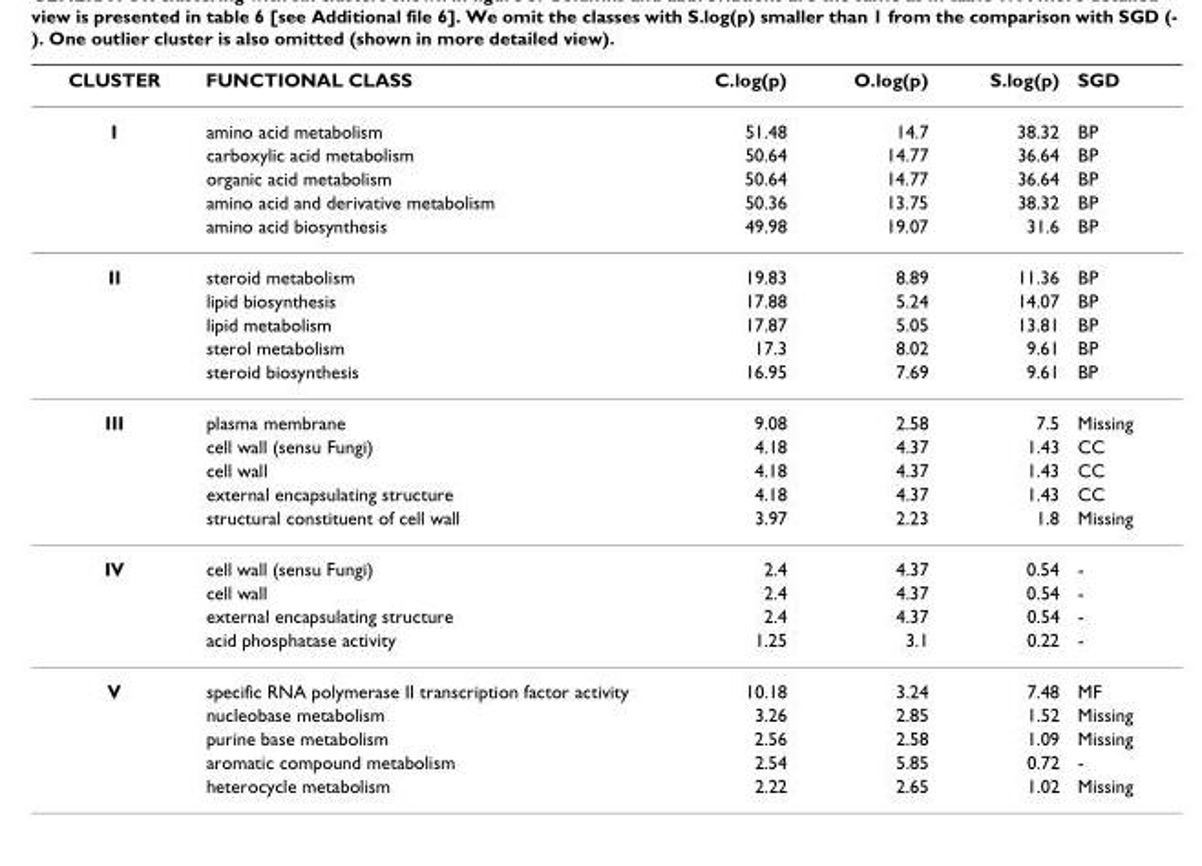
<table><thead><tr><td>CLUSTER</td><td>FUNCTIONAL CLASS</td><td>C.log(p)</td><td>O.log(p)</td><td>S.log(p)</td><td>SGD</td></tr></thead><tbody><tr><td rowspan="5">I</td><td>amino acid metabolism</td><td>51.48</td><td>14.7</td><td>38.32</td><td>BP</td></tr><tr><td>carboxylic acid metabolism</td><td>50.64</td><td>14.77</td><td>36.64</td><td>BP</td></tr><tr><td>organic acid metabolism</td><td>50.64</td><td>14.77</td><td>36.64</td><td>BP</td></tr><tr><td>amino acid and derivative metabolism</td><td>50.36</td><td>13.75</td><td>38.32</td><td>BP</td></tr><tr><td>amino acid biosynthesis</td><td>49.98</td><td>19.07</td><td>31.6</td><td>BP</td></tr><tr><td rowspan="5">II</td><td>steroid metabolism</td><td>19.83</td><td>8.89</td><td>11.36</td><td>BP</td></tr><tr><td>lipid biosynthesis</td><td>17.88</td><td>5.24</td><td>14.07</td><td>BP</td></tr><tr><td>lipid metabolism</td><td>17.87</td><td>5.05</td><td>13.81</td><td>BP</td></tr><tr><td>sterol metabolism</td><td>17.3</td><td>8.02</td><td>9.61</td><td>BP</td></tr><tr><td>steroid biosynthesis</td><td>16.95</td><td>7.69</td><td>9.61</td><td>BP</td></tr><tr><td rowspan="5">III</td><td>plasma membrane</td><td>9.08</td><td>2.58</td><td>7.5</td><td>Missing</td></tr><tr><td>cell wall (sensu Fungi)</td><td>4.18</td><td>4.37</td><td>1.43</td><td>CC</td></tr><tr><td>cell wall</td><td>4.18</td><td>4.37</td><td>1.43</td><td>CC</td></tr><tr><td>external encapsulating structure</td><td>4.18</td><td>4.37</td><td>1.43</td><td>CC</td></tr><tr><td>structural constituent of cell wall</td><td>3.97</td><td>2.23</td><td>1.8</td><td>Missing</td></tr><tr><td rowspan="4">IV</td><td>cell wall (sensu Fungi)</td><td>2.4</td><td>4.37</td><td>0.54</td><td>-</td></tr><tr><td>cell wall</td><td>2.4</td><td>4.37</td><td>0.54</td><td>-</td></tr><tr><td>external encapsulating structure</td><td>2.4</td><td>4.37</td><td>0.54</td><td>-</td></tr><tr><td>acid phosphatase activity</td><td>1.25</td><td>3.1</td><td>0.22</td><td>-</td></tr><tr><td rowspan="5">V</td><td>specific RNA polymerase II transcription factor activity</td><td>10.18</td><td>3.24</td><td>7.48</td><td>MF</td></tr><tr><td>nucleobase metabolism</td><td>3.26</td><td>2.85</td><td>1.52</td><td>Missing</td></tr><tr><td>purine base metabolism</td><td>2.56</td><td>2.58</td><td>1.09</td><td>Missing</td></tr><tr><td>aromatic compound metabolism</td><td>2.54</td><td>5.85</td><td>0.72</td><td>-</td></tr><tr><td>heterocycle metabolism</td><td>2.22</td><td>2.65</td><td>1.02</td><td>Missing</td></tr></tbody></table>